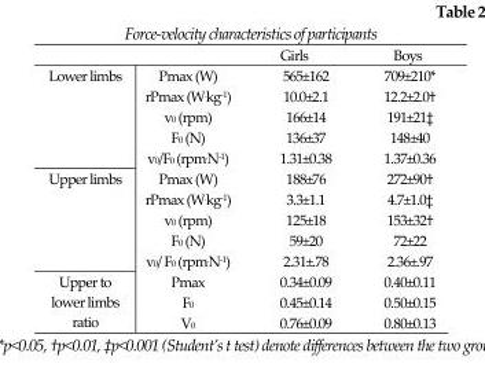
<table><thead><tr><td></td><td></td><td>Girls</td><td>Boys</td></tr></thead><tbody><tr><td rowspan="5">Lower limbs</td><td>Pmax (W)</td><td>565±162</td><td>709±210*</td></tr><tr><td>rPmax (W.kg-1)</td><td>10.0±2.1</td><td>12.2±2.0<sup>†</sup></td></tr><tr><td>v<sub>0</sub> (rpm)</td><td>166±14</td><td>191±21<sup>‡</sup></td></tr><tr><td>F<sub>0</sub> (N)</td><td>136±37</td><td>148±40</td></tr><tr><td>v0/F0 (rpm.N-1)</td><td>1.31±0.38</td><td>1.37±0.36</td></tr><tr><td rowspan="5">Upper limbs</td><td>Pmax (W)</td><td>188±76</td><td>272±90<sup>†</sup></td></tr><tr><td>rPmax (W.kg-1)</td><td>3.3±1.1</td><td>4.7±1.0<sup>‡</sup></td></tr><tr><td>v<sub>0</sub> (rpm)</td><td>125±18</td><td>153±32<sup>†</sup></td></tr><tr><td>F<sub>0</sub> (N)</td><td>59±20</td><td>72±22</td></tr><tr><td>v0/ F0 (rpm.N-1)</td><td>2.31±.78</td><td>2.36±.97</td></tr><tr><td rowspan="3">Upper to lower limbs ratio</td><td>Pmax</td><td>0.34±0.09</td><td>0.40±0.11</td></tr><tr><td>F<sub>0</sub></td><td>0.45±0.14</td><td>0.50±0.15</td></tr><tr><td>V<sub>0</sub></td><td>0.76±0.09</td><td>0.80±0.13</td></tr></tbody></table>